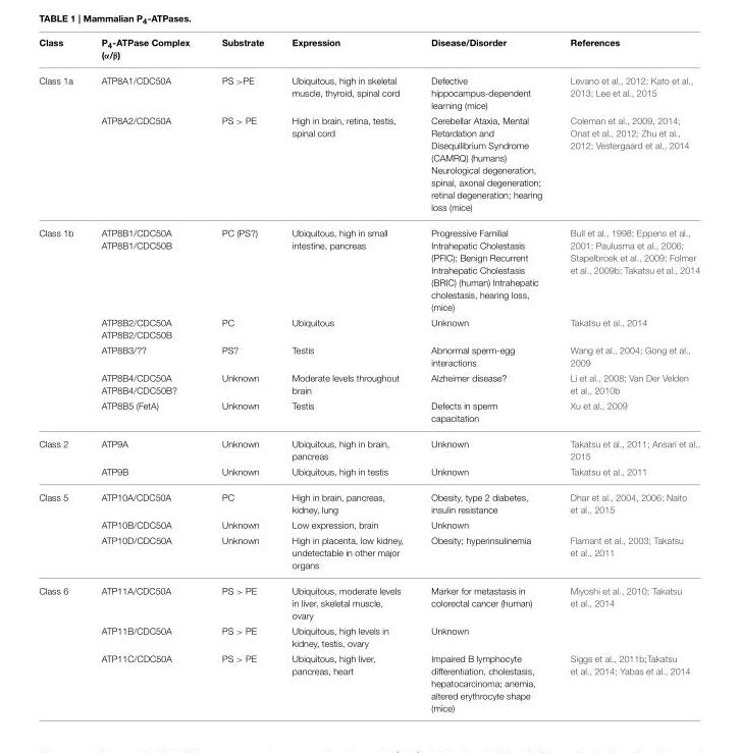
<table><thead><tr><td>Class</td><td>P<sub>4</sub>-ATPase Complex (α/β)</td><td>Substrate</td><td>Expression</td><td>Disease/Disorder</td><td>References</td></tr></thead><tbody><tr><td rowspan="2">Class 1a</td><td>ATP8A1/CDC50A</td><td>PS &gt;PE</td><td>Ubiquitous, high in skeletal muscle, thyroid, spinal cord</td><td>Defective hippocampus-dependent learning (mice)</td><td>Levano et al., 2012; Kato et al., 2013; Lee et al., 2015</td></tr><tr><td>ATP8A2/CDC50A</td><td>PS &gt; PE</td><td>High in brain, retina, testis, spinal cord</td><td>Cerebellar Ataxia, Mental Retardation and Disequilibrium Syndrome (CAMRQ) (humans) Neurological degeneration, spinal, axonal degeneration; retinal degeneration; hearing loss (mice)</td><td>Coleman et al., 2009, 2014; Onat et al., 2012; Zhu et al., 2012; Vestergaard et al., 2014</td></tr><tr><td rowspan="5">Class 1b</td><td>ATP8B1/CDC50A ATP8B1/CDC50B</td><td>PC (PS?)</td><td>Ubiquitous, high in small intestine, pancreas</td><td>Progressive Familial Intrahepatic Cholestasis (PFIC); Benign Recurrent Intrahepatic Cholestasis (BRIC) (human) Intrahepatic cholestasis, hearing loss, (mice)</td><td>Bull et al., 1998; Eppens et al., 2001; Paulusma et al., 2006; Stapelbroek et al., 2009; Folmer et al., 2009b; Takatsu et al., 2014</td></tr><tr><td>ATP8B2/CDC50A ATP8B2/CDC50B</td><td>PC</td><td>Ubiquitous</td><td>Unknown</td><td>Takatsu et al., 2014</td></tr><tr><td>ATP8B3/??</td><td>PS?</td><td>Testis</td><td>Abnormal sperm-egg interactions</td><td>Wang et al., 2004; Gong et al., 2009</td></tr><tr><td>ATP8B4/CDC50A ATP8B4/CDC50B?</td><td>Unknown</td><td>Moderate levels throughout brain</td><td>Alzheimer disease?</td><td>Li et al., 2008; Van Der Velden et al., 2010b</td></tr><tr><td>ATP8B5 (FetA)</td><td>Unknown</td><td>Testis</td><td>Defects in sperm capacitation</td><td>Xu et al., 2009</td></tr><tr><td rowspan="2">Class 2</td><td>ATP9A</td><td>Unknown</td><td>Ubiquitous, high in brain, pancreas</td><td>Unknown</td><td>Takatsu et al., 2011; Ansari et al., 2015</td></tr><tr><td>ATP9B</td><td>Unknown</td><td>Ubiquitous, high in testis</td><td>Unknown</td><td>Takatsu et al., 2011</td></tr><tr><td rowspan="3">Class 5</td><td>ATP10A/CDC50A</td><td>PC</td><td>High in brain, pancreas, kidney, lung</td><td>Obesity, type 2 diabetes, insulin resistance</td><td>Dhar et al., 2004, 2006; Naito et al., 2015</td></tr><tr><td>ATP10B/CDC50A</td><td>Unknown</td><td>Low expression, brain</td><td>Unknown</td><td></td></tr><tr><td>ATP10D/CDC50A</td><td>Unknown</td><td>High in placenta, low kidney, undetectable in other major organs</td><td>Obesity; hyperinsulinemia</td><td>Flamant et al., 2003; Takatsu et al., 2011</td></tr><tr><td rowspan="3">Class 6</td><td>ATP11A/CDC50A</td><td>PS &gt; PE</td><td>Ubiquitous, moderate levels in liver, skeletal muscle, ovary</td><td>Marker for metastasis in colorectal cancer (human)</td><td>Miyoshi et al., 2010; Takatsu et al., 2014</td></tr><tr><td>ATP11B/CDC50A</td><td>PS &gt; PE</td><td>Ubiquitous, high levels in kidney, testis, ovary</td><td>Unknown</td><td></td></tr><tr><td>ATP11C/CDC50A</td><td>PS &gt; PE</td><td>Ubiquitous, high liver, pancreas, heart</td><td>Impaired B lymphocyte differentiation, cholestasis, hepatocarcinoma; anemia, altered erythrocyte shape (mice)</td><td>Siggs et al., 2011b;Takatsu et al., 2014; Yabas et al., 2014</td></tr></tbody></table>